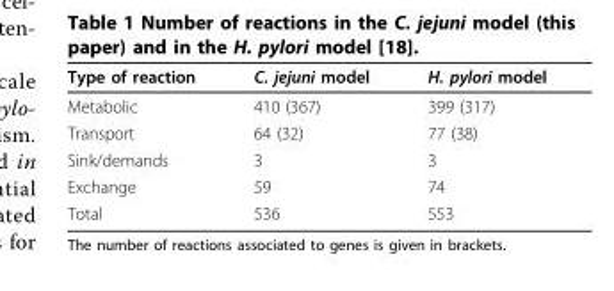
<table><thead><tr><td>Type of reaction</td><td>C. jejuni model</td><td>H. pylori model</td></tr></thead><tbody><tr><td>Metabolic</td><td>410 (367)</td><td>399 (317)</td></tr><tr><td>Transport</td><td>64 (32)</td><td>77 (38)</td></tr><tr><td>Sink/demands</td><td>3</td><td>3</td></tr><tr><td>Exchange</td><td>59</td><td>74</td></tr><tr><td>Total</td><td>536</td><td>553</td></tr></tbody></table>